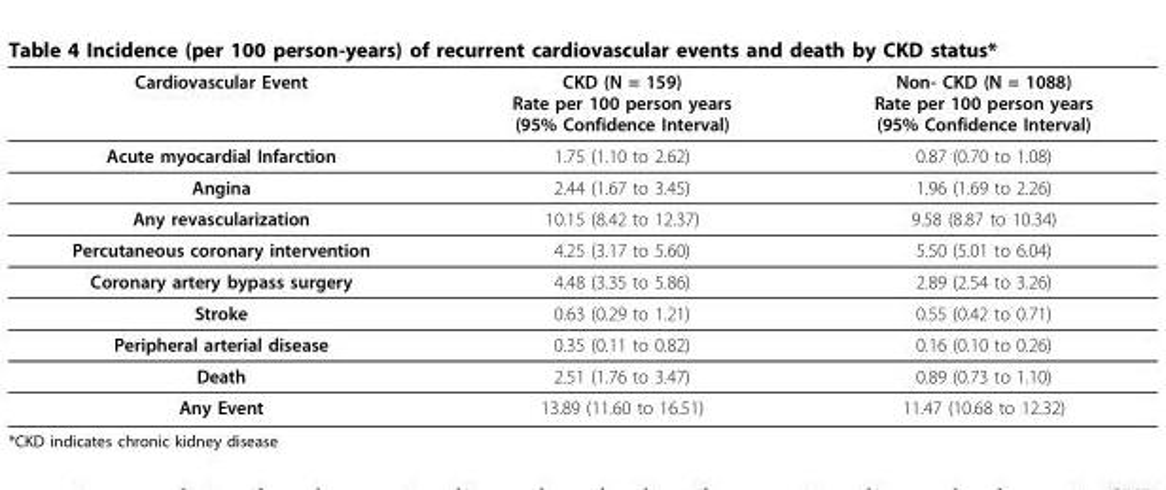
<table><thead><tr><td>Cardiovascular Event</td><td>CKD (N = 159) Rate per 100 person years (95% Confidence Interval)</td><td>Non- CKD (N = 1088) Rate per 100 person years (95% Confidence Interval)</td></tr></thead><tbody><tr><td>Acute myocardial Infarction</td><td>1.75 (1.10 to 2.62)</td><td>0.87 (0.70 to 1.08)</td></tr><tr><td>Angina</td><td>2.44 (1.67 to 3.45)</td><td>1.96 (1.69 to 2.26)</td></tr><tr><td>Any revascularization</td><td>10.15 (8.42 to 12.37)</td><td>9.58 (8.87 to 10.34)</td></tr><tr><td>Percutaneous coronary intervention</td><td>4.25 (3.17 to 5.60)</td><td>5.50 (5.01 to 6.04)</td></tr><tr><td>Coronary artery bypass surgery</td><td>4.48 (3.35 to 5.86)</td><td>2.89 (2.54 to 3.26)</td></tr><tr><td>Stroke</td><td>0.63 (0.29 to 1.21)</td><td>0.55 (0.42 to 0.71)</td></tr><tr><td>Peripheral arterial disease</td><td>0.35 (0.11 to 0.82)</td><td>0.16 (0.10 to 0.26)</td></tr><tr><td>Death</td><td>2.51 (1.76 to 3.47)</td><td>0.89 (0.73 to 1.10)</td></tr><tr><td>Any Event</td><td>13.89 (11.60 to 16.51)</td><td>11.47 (10.68 to 12.32)</td></tr></tbody></table>